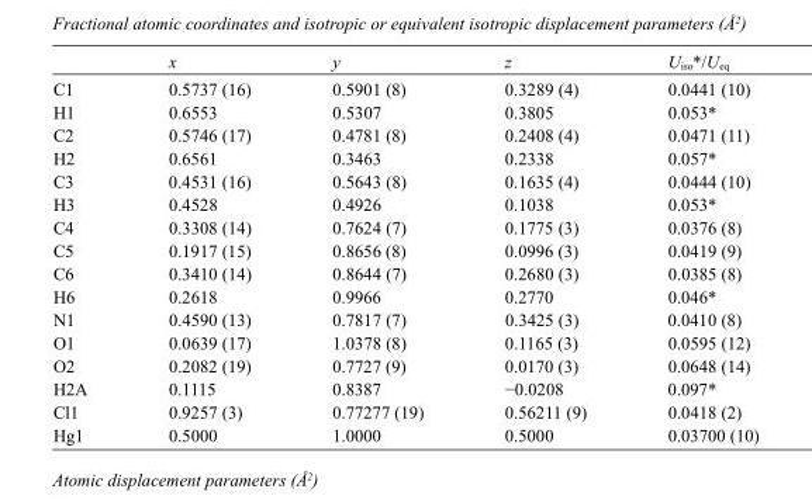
<table><thead><tr><td></td><td>x</td><td>y</td><td>z</td><td>U<sub>iso</sub>*/U<sub>eq</sub></td></tr></thead><tbody><tr><td>C1</td><td>0.5737 (16)</td><td>0.5901 (8)</td><td>0.3289 (4)</td><td>0.0441 (10)</td></tr><tr><td>H1</td><td>0.6553</td><td>0.5307</td><td>0.3805</td><td>0.053*</td></tr><tr><td>C2</td><td>0.5746 (17)</td><td>0.4781 (8)</td><td>0.2408 (4)</td><td>0.0471 (11)</td></tr><tr><td>H2</td><td>0.6561</td><td>0.3463</td><td>0.2338</td><td>0.057*</td></tr><tr><td>C3</td><td>0.4531 (16)</td><td>0.5643 (8)</td><td>0.1635 (4)</td><td>0.0444 (10)</td></tr><tr><td>H3</td><td>0.4528</td><td>0.4926</td><td>0.1038</td><td>0.053*</td></tr><tr><td>C4</td><td>0.3308 (14)</td><td>0.7624 (7)</td><td>0.1775 (3)</td><td>0.0376 (8)</td></tr><tr><td>C5</td><td>0.1917 (15)</td><td>0.8656 (8)</td><td>0.0996 (3)</td><td>0.0419 (9)</td></tr><tr><td>C6</td><td>0.3410 (14)</td><td>0.8644 (7)</td><td>0.2680 (3)</td><td>0.0385 (8)</td></tr><tr><td>H6</td><td>0.2618</td><td>0.9966</td><td>0.2770</td><td>0.046*</td></tr><tr><td>N1</td><td>0.4590 (13)</td><td>0.7817 (7)</td><td>0.3425 (3)</td><td>0.0410 (8)</td></tr><tr><td>O1</td><td>0.0639 (17)</td><td>1.0378 (8)</td><td>0.1165 (3)</td><td>0.0595 (12)</td></tr><tr><td>O2</td><td>0.2082 (19)</td><td>0.7727 (9)</td><td>0.0170 (3)</td><td>0.0648 (14)</td></tr><tr><td>H2A</td><td>0.1115</td><td>0.8387</td><td>−0.0208</td><td>0.097*</td></tr><tr><td>Cl1</td><td>0.9257 (3)</td><td>0.77277 (19)</td><td>0.56211 (9)</td><td>0.0418 (2)</td></tr><tr><td>Hg1</td><td>0.5000</td><td>1.0000</td><td>0.5000</td><td>0.03700 (10)</td></tr></tbody></table>